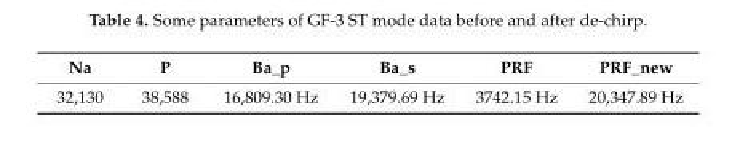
<table><thead><tr><td>Na</td><td>P</td><td>Ba_p</td><td>Ba_s</td><td>PRF</td><td>PRF_new</td></tr></thead><tbody><tr><td>32,130</td><td>38,588</td><td>16,809.30 Hz</td><td>19,379.69 Hz</td><td>3742.15 Hz</td><td>20,347.89 Hz</td></tr></tbody></table>